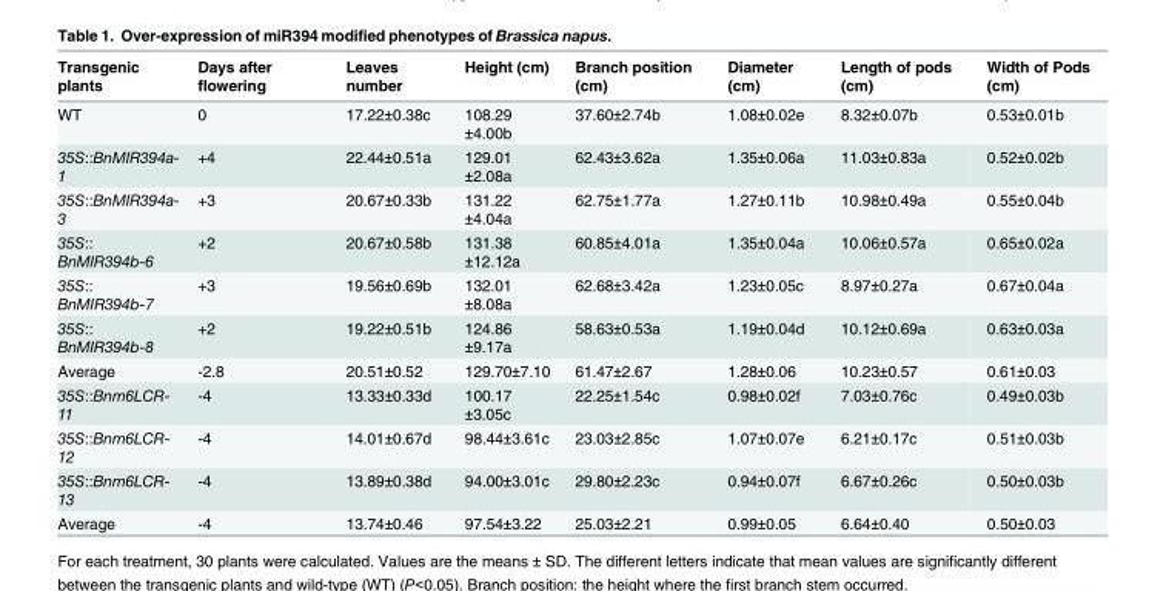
<table><thead><tr><td>Transgenic plants</td><td>Days after flowering</td><td>Leaves number</td><td>Height (cm)</td><td>Branch position (cm)</td><td>Diameter (cm)</td><td>Length of pods (cm)</td><td>Width of Pods (cm)</td></tr></thead><tbody><tr><td>WT</td><td>0</td><td>17.22±0.38c</td><td>108.29 ±4.00b</td><td>37.60±2.74b</td><td>1.08±0.02e</td><td>8.32±0.07b</td><td>0.53±0.01b</td></tr><tr><td>35S::BnMIR394a- 1</td><td>+4</td><td>22.44±0.51a</td><td>129.01 ±2.08a</td><td>62.43±3.62a</td><td>1.35±0.06a</td><td>11.03±0.83a</td><td>0.52±0.02b</td></tr><tr><td>35S::BnMIR394a- 3</td><td>+3</td><td>20.67±0.33b</td><td>131.22 ±4.04a</td><td>62.75±1.77a</td><td>1.27±0.11b</td><td>10.98±0.49a</td><td>0.55±0.04b</td></tr><tr><td>35S:: BnMIR394b-6</td><td>+2</td><td>20.67±0.58b</td><td>131.38 ±12.12a</td><td>60.85±4.01a</td><td>1.35±0.04a</td><td>10.06±0.57a</td><td>0.65±0.02a</td></tr><tr><td>35S:: BnMIR394b-7</td><td>+3</td><td>19.56±0.69b</td><td>132.01 ±8.08a</td><td>62.68±3.42a</td><td>1.23±0.05c</td><td>8.97±0.27a</td><td>0.67±0.04a</td></tr><tr><td>35S:: BnMIR394b-8</td><td>+2</td><td>19.22±0.51b</td><td>124.86 ±9.17a</td><td>58.63±0.53a</td><td>1.19±0.04d</td><td>10.12±0.69a</td><td>0.63±0.03a</td></tr><tr><td>Average</td><td>-2.8</td><td>20.51±0.52</td><td>129.70±7.10</td><td>61.47±2.67</td><td>1.28±0.06</td><td>10.23±0.57</td><td>0.61±0.03</td></tr><tr><td>35S::Bnm6LCR- 11</td><td>-4</td><td>13.33±0.33d</td><td>100.17 ±3.05c</td><td>22.25±1.54c</td><td>0.98±0.02f</td><td>7.03±0.76c</td><td>0.49±0.03b</td></tr><tr><td>35S::Bnm6LCR- 12</td><td>-4</td><td>14.01±0.67d</td><td>98.44±3.61c</td><td>23.03±2.85c</td><td>1.07±0.07e</td><td>6.21±0.17c</td><td>0.51±0.03b</td></tr><tr><td>35S::Bnm6LCR- 13</td><td>-4</td><td>13.89±0.38d</td><td>94.00±3.01c</td><td>29.80±2.23c</td><td>0.94±0.07f</td><td>6.67±0.26c</td><td>0.50±0.03b</td></tr><tr><td>Average</td><td>-4</td><td>13.74±0.46</td><td>97.54±3.22</td><td>25.03±2.21</td><td>0.99±0.05</td><td>6.64±0.40</td><td>0.50±0.03</td></tr></tbody></table>